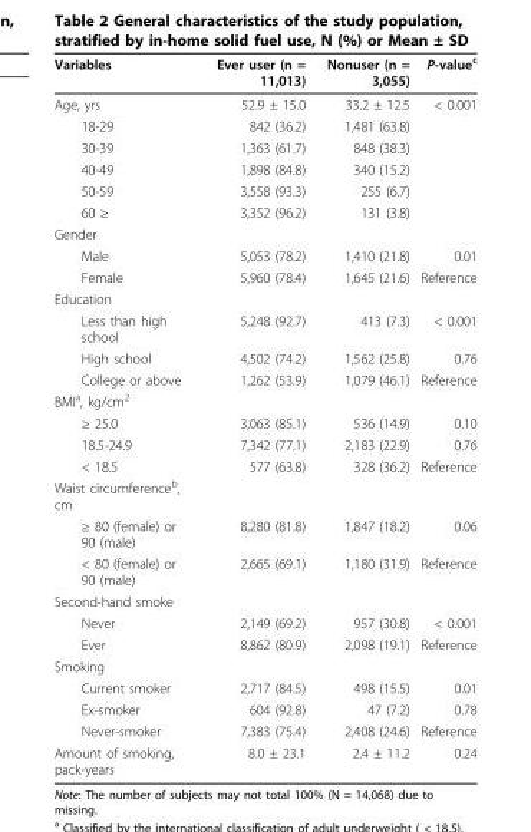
<table><thead><tr><td>Variables</td><td>Ever user (n = 11,013)</td><td>Nonuser (n = 3,055)</td><td>P-value<sup>c</sup></td></tr></thead><tbody><tr><td>Age, yrs</td><td>52.9 ± 15.0</td><td>33.2 ± 12.5</td><td>&lt; 0.001</td></tr><tr><td>18-29</td><td>842 (36.2)</td><td>1,481 (63.8)</td><td></td></tr><tr><td>30-39</td><td>1,363 (61.7)</td><td>848 (38.3)</td><td></td></tr><tr><td>40-49</td><td>1,898 (84.8)</td><td>340 (15.2)</td><td></td></tr><tr><td>50-59</td><td>3,558 (93.3)</td><td>255 (6.7)</td><td></td></tr><tr><td>60 ≥</td><td>3,352 (96.2)</td><td>131 (3.8)</td><td></td></tr><tr><td colspan="4">Gender</td></tr><tr><td>Male</td><td>5,053 (78.2)</td><td>1,410 (21.8)</td><td>0.01</td></tr><tr><td>Female</td><td>5,960 (78.4)</td><td>1,645 (21.6)</td><td>Reference</td></tr><tr><td colspan="4">Education</td></tr><tr><td>Less than high school</td><td>5,248 (92.7)</td><td>413 (7.3)</td><td>&lt; 0.001</td></tr><tr><td>High school</td><td>4,502 (74.2)</td><td>1,562 (25.8)</td><td>0.76</td></tr><tr><td>College or above</td><td>1,262 (53.9)</td><td>1,079 (46.1)</td><td>Reference</td></tr><tr><td colspan="4">BMI<sup>a</sup>, kg/cm<sup>2</sup></td></tr><tr><td>≥ 25.0</td><td>3,063 (85.1)</td><td>536 (14.9)</td><td>0.10</td></tr><tr><td>18.5-24.9</td><td>7,342 (77.1)</td><td>2,183 (22.9)</td><td>0.76</td></tr><tr><td>&lt; 18.5</td><td>577 (63.8)</td><td>328 (36.2)</td><td>Reference</td></tr><tr><td colspan="4">Waist circumference<sup>b</sup>, cm</td></tr><tr><td>≥ 80 (female) or 90 (male)</td><td>8,280 (81.8)</td><td>1,847 (18.2)</td><td>0.06</td></tr><tr><td>&lt; 80 (female) or 90 (male)</td><td>2,665 (69.1)</td><td>1,180 (31.9)</td><td>Reference</td></tr><tr><td colspan="4">Second-hand smoke</td></tr><tr><td>Never</td><td>2,149 (69.2)</td><td>957 (30.8)</td><td>&lt; 0.001</td></tr><tr><td>Ever</td><td>8,862 (80.9)</td><td>2,098 (19.1)</td><td>Reference</td></tr><tr><td colspan="4">Smoking</td></tr><tr><td>Current smoker</td><td>2,717 (84.5)</td><td>498 (15.5)</td><td>0.01</td></tr><tr><td>Ex-smoker</td><td>604 (92.8)</td><td>47 (7.2)</td><td>0.78</td></tr><tr><td>Never-smoker</td><td>7,383 (75.4)</td><td>2,408 (24.6)</td><td>Reference</td></tr><tr><td>Amount of smoking, pack-years</td><td>8.0 ± 23.1</td><td>2.4 ± 11.2</td><td>0.24</td></tr></tbody></table>